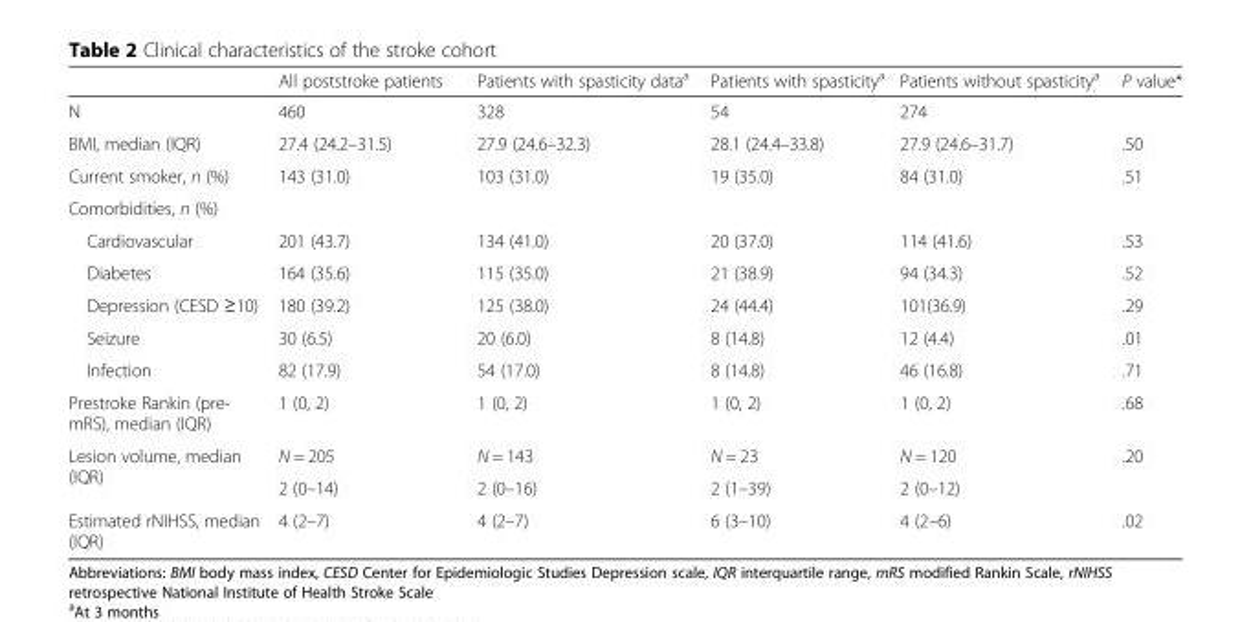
<table><thead><tr><td></td><td>All poststroke patients</td><td>Patients with spasticity data<sup>a</sup></td><td>Patients with spasticity<sup>a</sup></td><td>Patients without spasticity<sup>a</sup></td><td>P value*</td></tr></thead><tbody><tr><td>N</td><td>460</td><td>328</td><td>54</td><td>274</td><td></td></tr><tr><td>BMI, median (IQR)</td><td>27.4 (24.2–31.5)</td><td>27.9 (24.6–32.3)</td><td>28.1 (24.4–33.8)</td><td>27.9 (24.6–31.7)</td><td>.50</td></tr><tr><td>Current smoker, n (%)</td><td>143 (31.0)</td><td>103 (31.0)</td><td>19 (35.0)</td><td>84 (31.0)</td><td>.51</td></tr><tr><td colspan="6">Comorbidities, n (%)</td></tr><tr><td>Cardiovascular</td><td>201 (43.7)</td><td>134 (41.0)</td><td>20 (37.0)</td><td>114 (41.6)</td><td>.53</td></tr><tr><td>Diabetes</td><td>164 (35.6)</td><td>115 (35.0)</td><td>21 (38.9)</td><td>94 (34.3)</td><td>.52</td></tr><tr><td>Depression (CESD ≥10)</td><td>180 (39.2)</td><td>125 (38.0)</td><td>24 (44.4)</td><td>101(36.9)</td><td>.29</td></tr><tr><td>Seizure</td><td>30 (6.5)</td><td>20 (6.0)</td><td>8 (14.8)</td><td>12 (4.4)</td><td>.01</td></tr><tr><td>Infection</td><td>82 (17.9)</td><td>54 (17.0)</td><td>8 (14.8)</td><td>46 (16.8)</td><td>.71</td></tr><tr><td>Prestroke Rankin (pre- mRS), median (IQR)</td><td>1 (0, 2)</td><td>1 (0, 2)</td><td>1 (0, 2)</td><td>1 (0, 2)</td><td>.68</td></tr><tr><td rowspan="2">Lesion volume, median (IQR)</td><td>N = 205</td><td>N = 143</td><td>N = 23</td><td>N = 120</td><td rowspan="2">.20</td></tr><tr><td>2 (0–14)</td><td>2 (0–16)</td><td>2 (1–39)</td><td>2 (0–12)</td></tr><tr><td>Estimated rNIHSS, median (IQR)</td><td>4 (2–7)</td><td>4 (2–7)</td><td>6 (3–10)</td><td>4 (2–6)</td><td>.02</td></tr></tbody></table>